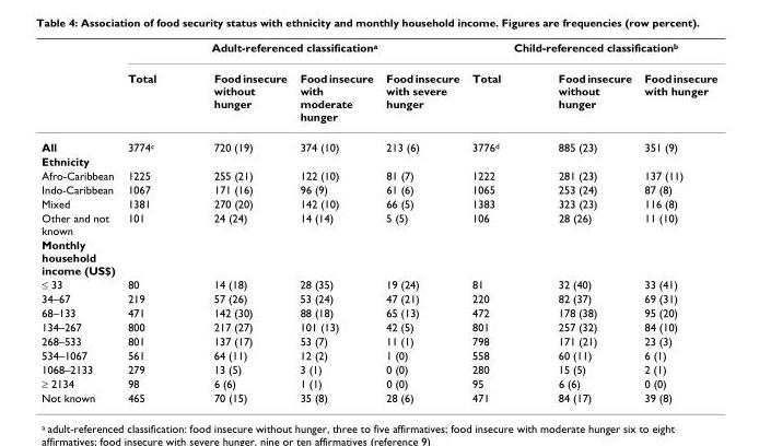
<table><thead><tr><td rowspan="2"></td><td colspan="4">Adult-referenced classificationa</td><td colspan="3">Child-referenced classificationb</td></tr><tr><td>Total</td><td>Food insecure without hunger</td><td>Food insecure with moderate hunger</td><td>Food insecure with severe hunger</td><td>Total</td><td>Food insecure without hunger</td><td>Food insecure with hunger</td></tr></thead><tbody><tr><td>All</td><td>3774c</td><td>720 (19)</td><td>374 (10)</td><td>213 (6)</td><td>3776d</td><td>885 (23)</td><td>351 (9)</td></tr><tr><td colspan="8">Ethnicity</td></tr><tr><td>Afro-Caribbean</td><td>1225</td><td>255 (21)</td><td>122 (10)</td><td>81 (7)</td><td>1222</td><td>281 (23)</td><td>137 (11)</td></tr><tr><td>Indo-Caribbean</td><td>1067</td><td>171 (16)</td><td>96 (9)</td><td>61 (6)</td><td>1065</td><td>253 (24)</td><td>87 (8)</td></tr><tr><td>Mixed</td><td>1381</td><td>270 (20)</td><td>142 (10)</td><td>66 (5)</td><td>1383</td><td>323 (23)</td><td>116 (8)</td></tr><tr><td>Other and not known</td><td>101</td><td>24 (24)</td><td>14 (14)</td><td>5 (5)</td><td>106</td><td>28 (26)</td><td>11 (10)</td></tr><tr><td colspan="8">Monthly household income (US$)</td></tr><tr><td>≤ 33</td><td>80</td><td>14 (18)</td><td>28 (35)</td><td>19 (24)</td><td>81</td><td>32 (40)</td><td>33 (41)</td></tr><tr><td>34–67</td><td>219</td><td>57 (26)</td><td>53 (24)</td><td>47 (21)</td><td>220</td><td>82 (37)</td><td>69 (31)</td></tr><tr><td>68–133</td><td>471</td><td>142 (30)</td><td>88 (18)</td><td>65 (13)</td><td>472</td><td>178 (38)</td><td>95 (20)</td></tr><tr><td>134–267</td><td>800</td><td>217 (27)</td><td>101 (13)</td><td>42 (5)</td><td>801</td><td>257 (32)</td><td>84 (10)</td></tr><tr><td>268–533</td><td>801</td><td>137 (17)</td><td>53 (7)</td><td>11 (1)</td><td>798</td><td>171 (21)</td><td>23 (3)</td></tr><tr><td>534–1067</td><td>561</td><td>64 (11)</td><td>12 (2)</td><td>1 (0)</td><td>558</td><td>60 (11)</td><td>6 (1)</td></tr><tr><td>1068–2133</td><td>279</td><td>13 (5)</td><td>3 (1)</td><td>0 (0)</td><td>280</td><td>15 (5)</td><td>2 (1)</td></tr><tr><td>≥ 2134</td><td>98</td><td>6 (6)</td><td>1 (1)</td><td>0 (0)</td><td>95</td><td>6 (6)</td><td>0 (0)</td></tr><tr><td>Not known</td><td>465</td><td>70 (15)</td><td>35 (8)</td><td>28 (6)</td><td>471</td><td>84 (17)</td><td>39 (8)</td></tr></tbody></table>